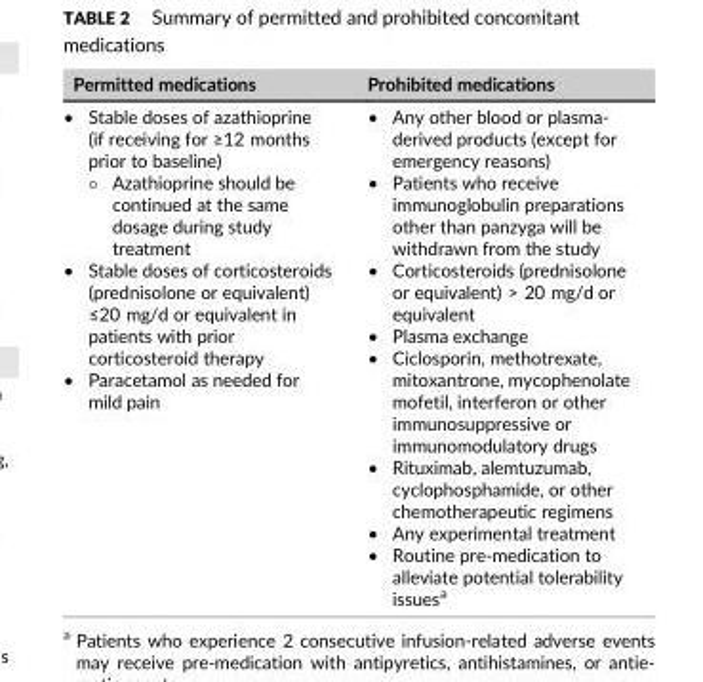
<table><thead><tr><td>Permitted medications</td><td>Prohibited medications</td></tr></thead><tbody><tr><td>Stable doses of azathioprine (if receiving for ≥12 months prior to baseline) � Azathioprine should be continued at the same dosage during study treatment Stable doses of corticosteroids (prednisolone or equivalent) ≤20 mg/d or equivalent in patients with prior corticosteroid therapy Paracetamol as needed for mild pain</td><td>• Any other blood or plasma- derived products (except for emergency reasons) • Patients who receive immunoglobulin preparations other than panzyga will be withdrawn from the study • Corticosteroids (prednisolone or equivalent) &gt; 20 mg/d or equivalent • Plasma exchange • Ciclosporin, methotrexate, mitoxantrone, mycophenolate mofetil, interferon or other immunosuppressive or immunomodulatory drugs • Rituximab, alemtuzumab, cyclophosphamide, or other chemotherapeutic regimens • Any experimental treatment • Routine pre-medication to alleviate potential tolerability issuesa</td></tr></tbody></table>